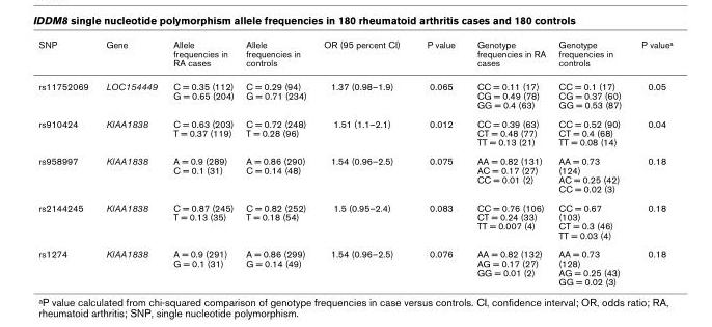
<table><thead><tr><td>SNP</td><td>Gene</td><td>Allele frequencies in RA cases</td><td>Allele frequencies in controls</td><td>OR (95 percent CI)</td><td>P value</td><td>Genotype frequencies in RA cases</td><td>Genotype frequencies in controls</td><td>P valuea</td></tr></thead><tbody><tr><td>rs11752069</td><td>LOC154449</td><td>C = 0.35 (112) G = 0.65 (204)</td><td>C = 0.29 (94) G = 0.71 (234)</td><td>1.37 (0.98–1.9)</td><td>0.065</td><td>CC = 0.11 (17) CG = 0.49 (78) GG = 0.4 (63)</td><td>CC = 0.1 (17) CG = 0.37 (60) GG = 0.53 (87)</td><td>0.05</td></tr><tr><td>rs910424</td><td>KIAA1838</td><td>C = 0.63 (203) T = 0.37 (119)</td><td>C = 0.72 (248) T = 0.28 (96)</td><td>1.51 (1.1–2.1)</td><td>0.012</td><td>CC = 0.39 (63) CT = 0.48 (77) TT = 0.13 (21)</td><td>CC = 0.52 (90) CT = 0.4 (68) TT = 0.08 (14)</td><td>0.04</td></tr><tr><td>rs958997</td><td>KIAA1838</td><td>A = 0.9 (289) C = 0.1 (31)</td><td>A = 0.86 (290) C = 0.14 (48)</td><td>1.54 (0.96–2.5)</td><td>0.075</td><td>AA = 0.82 (131) AC = 0.17 (27) CC = 0.01 (2)</td><td>AA = 0.73 (124) AC = 0.25 (42) CC = 0.02 (3)</td><td>0.18</td></tr><tr><td>rs2144245</td><td>KIAA1838</td><td>C = 0.87 (245) T = 0.13 (35)</td><td>C = 0.82 (252) T = 0.18 (54)</td><td>1.5 (0.95–2.4)</td><td>0.083</td><td>CC = 0.76 (106) CT = 0.24 (33) TT = 0.007 (4)</td><td>CC = 0.67 (103) CT = 0.3 (46) TT = 0.03 (4)</td><td>0.18</td></tr><tr><td>rs1274</td><td>KIAA1838</td><td>A = 0.9 (291) G = 0.1 (31)</td><td>A = 0.86 (299) G = 0.14 (49)</td><td>1.54 (0.96–2.5)</td><td>0.076</td><td>AA = 0.82 (132) AG = 0.17 (27) GG = 0.01 (2)</td><td>AA = 0.73 (128) AG = 0.25 (43) GG = 0.02 (3)</td><td>0.18</td></tr></tbody></table>